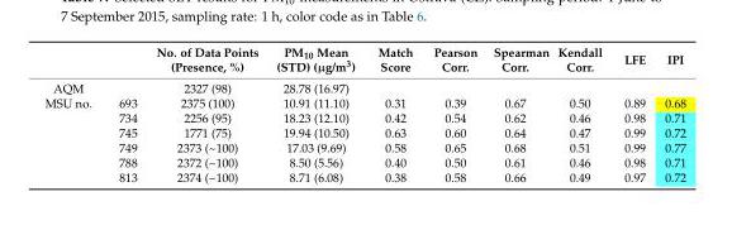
<table><thead><tr><td></td><td></td><td>No. of Data Points (Presence, %)</td><td>PM<sub>10</sub> Mean (STD) (µg/m<sup>3</sup>)</td><td>Match Score</td><td>Pearson Corr.</td><td>Spearman Corr.</td><td>Kendall Corr.</td><td>LFE</td><td>IPI</td></tr></thead><tbody><tr><td>AQM</td><td></td><td>2327 (98)</td><td>28.78 (16.97)</td><td></td><td></td><td></td><td></td><td></td><td></td></tr><tr><td rowspan="6">MSU no.</td><td>693</td><td>2375 (100)</td><td>10.91 (11.10)</td><td>0.31</td><td>0.39</td><td>0.67</td><td>0.50</td><td>0.89</td><td>0.68</td></tr><tr><td>734</td><td>2256 (95)</td><td>18.23 (12.10)</td><td>0.42</td><td>0.54</td><td>0.62</td><td>0.46</td><td>0.98</td><td>0.71</td></tr><tr><td>745</td><td>1771 (75)</td><td>19.94 (10.50)</td><td>0.63</td><td>0.60</td><td>0.64</td><td>0.47</td><td>0.99</td><td>0.72</td></tr><tr><td>749</td><td>2373 (~100)</td><td>17.03 (9.69)</td><td>0.58</td><td>0.65</td><td>0.68</td><td>0.51</td><td>0.99</td><td>0.77</td></tr><tr><td>788</td><td>2372 (~100)</td><td>8.50 (5.56)</td><td>0.40</td><td>0.50</td><td>0.61</td><td>0.46</td><td>0.98</td><td>0.71</td></tr><tr><td>813</td><td>2374 (~100)</td><td>8.71 (6.08)</td><td>0.38</td><td>0.58</td><td>0.66</td><td>0.49</td><td>0.97</td><td>0.72</td></tr></tbody></table>